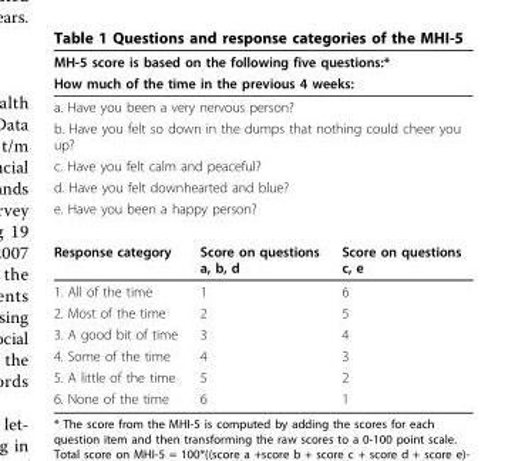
<table><thead><tr><td rowspan="2" colspan="3">MH-5 score is based on the following five questions:* How much of the time in the previous 4 weeks:</td></tr><tr></tr></thead><tbody><tr><td colspan="3">a. Have you been a very nervous person?</td></tr><tr><td colspan="3">b. Have you felt so down in the dumps that nothing could cheer you up?</td></tr><tr><td colspan="3">c. Have you felt calm and peaceful?</td></tr><tr><td colspan="3">d. Have you felt downhearted and blue?</td></tr><tr><td colspan="3">e. Have you been a happy person?</td></tr><tr><td>Response category</td><td>Score on questions a, b, d</td><td>Score on questions c, e</td></tr><tr><td>1. All of the time</td><td>1</td><td>6</td></tr><tr><td>2. Most of the time</td><td>2</td><td>5</td></tr><tr><td>3. A good bit of time</td><td>3</td><td>4</td></tr><tr><td>4. Some of the time</td><td>4</td><td>3</td></tr><tr><td>5. A little of the time</td><td>5</td><td>2</td></tr><tr><td>6. None of the time</td><td>6</td><td>1</td></tr></tbody></table>